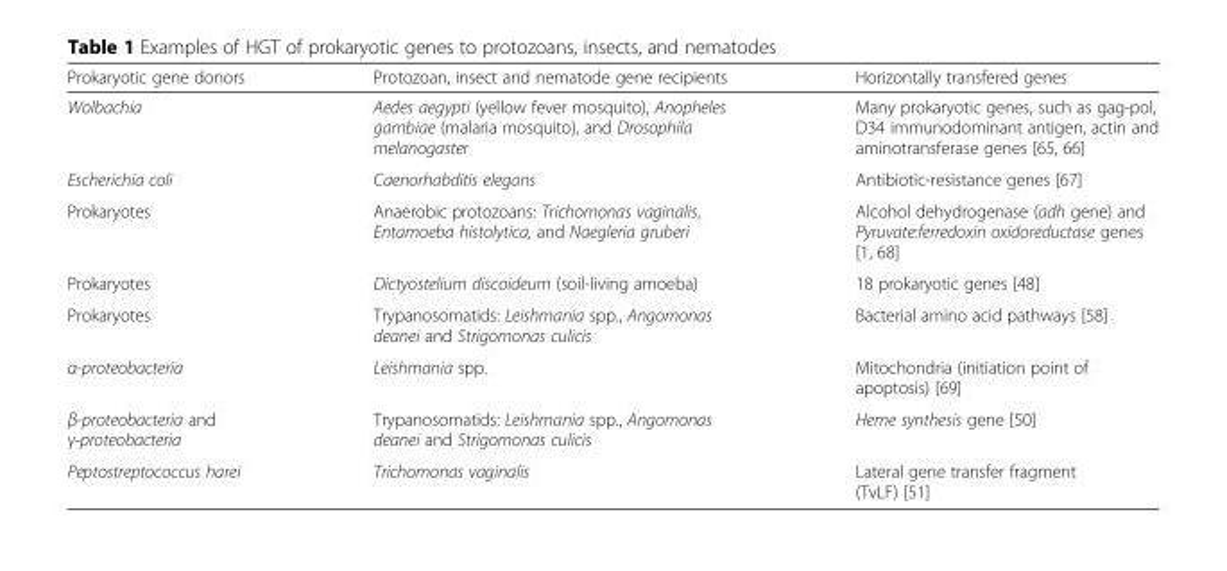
<table><thead><tr><td>Prokaryotic gene donors</td><td>Protozoan, insect and nematode gene recipients</td><td>Horizontally transfered genes</td></tr></thead><tbody><tr><td>Wolbachia</td><td>Aedes aegypti (yellow fever mosquito), Anopheles gambiae (malaria mosquito), and Drosophila melanogaster</td><td>Many prokaryotic genes, such as gag-pol, D34 immunodominant antigen, actin and aminotransferase genes [65, 66]</td></tr><tr><td>Escherichia coli</td><td>Caenorhabditis elegans</td><td>Antibiotic-resistance genes [67]</td></tr><tr><td>Prokaryotes</td><td>Anaerobic protozoans: Trichomonas vaginalis, Entamoeba histolytica, and Naegleria gruberi</td><td>Alcohol dehydrogenase (adh gene) and Pyruvate:ferredoxin oxidoreductase genes [1, 68]</td></tr><tr><td>Prokaryotes</td><td>Dictyostelium discoideum (soil-living amoeba)</td><td>18 prokaryotic genes [48]</td></tr><tr><td>Prokaryotes</td><td>Trypanosomatids: Leishmania spp., Angomonas deanei and Strigomonas culicis</td><td>Bacterial amino acid pathways [58]</td></tr><tr><td>α-proteobacteria</td><td>Leishmania spp.</td><td>Mitochondria (initiation point of apoptosis) [69]</td></tr><tr><td>β-proteobacteria and γ-proteobacteria</td><td>Trypanosomatids: Leishmania spp., Angomonas deanei and Strigomonas culicis</td><td>Heme synthesis gene [50]</td></tr><tr><td>Peptostreptococcus harei</td><td>Trichomonas vaginalis</td><td>Lateral gene transfer fragment (TvLF) [51]</td></tr></tbody></table>